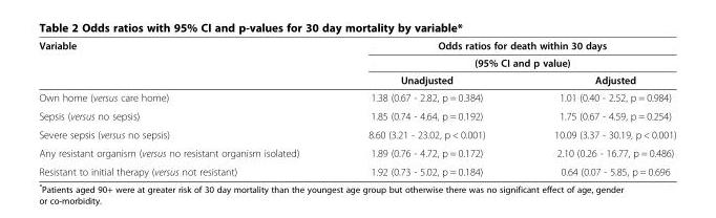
<table><thead><tr><td rowspan="3">Variable</td><td rowspan="2" colspan="2">Odds ratios for death within 30 days (95% CI and p value)</td></tr><tr></tr><tr><td>Unadjusted</td><td>Adjusted</td></tr></thead><tbody><tr><td>Own home (versus care home)</td><td>1.38 (0.67 - 2.82, p = 0.384)</td><td>1.01 (0.40 - 2.52, p = 0.984)</td></tr><tr><td>Sepsis (versus no sepsis)</td><td>1.85 (0.74 - 4.64, p = 0.192)</td><td>1.75 (0.67 - 4.59, p = 0.254)</td></tr><tr><td>Severe sepsis (versus no sepsis)</td><td>8.60 (3.21 - 23.02, p &lt; 0.001)</td><td>10.09 (3.37 - 30.19, p &lt; 0.001)</td></tr><tr><td>Any resistant organism (versus no resistant organism isolated)</td><td>1.89 (0.76 - 4.72, p = 0.172)</td><td>2.10 (0.26 - 16.77, p = 0.486)</td></tr><tr><td>Resistant to initial therapy (versus not resistant)</td><td>1.92 (0.73 - 5.02, p = 0.184)</td><td>0.64 (0.07 - 5.85, p = 0.696</td></tr></tbody></table>